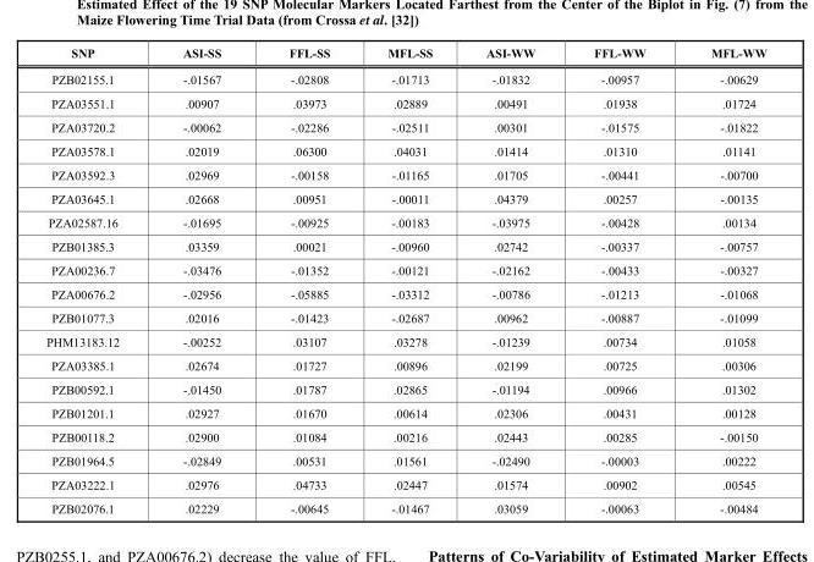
<table><thead><tr><td>SNP</td><td>ASI-SS</td><td>FFL-SS</td><td>MFL-SS</td><td>ASI-WW</td><td>FFL-WW</td><td>MFL-WW</td></tr></thead><tbody><tr><td>PZB02155.1</td><td>-.01567</td><td>-.02808</td><td>-.01713</td><td>-.01832</td><td>-.00957</td><td>-.00629</td></tr><tr><td>PZA03551.1</td><td>.00907</td><td>.03973</td><td>.02889</td><td>.00491</td><td>.01938</td><td>.01724</td></tr><tr><td>PZA03720.2</td><td>-.00062</td><td>-.02286</td><td>-.02511</td><td>.00301</td><td>-.01575</td><td>-.01822</td></tr><tr><td>PZA03578.1</td><td>.02019</td><td>.06300</td><td>.04031</td><td>.01414</td><td>.01310</td><td>.01141</td></tr><tr><td>PZA03592.3</td><td>.02969</td><td>-.00158</td><td>-.01165</td><td>.01705</td><td>-.00441</td><td>-.00700</td></tr><tr><td>PZA03645.1</td><td>.02668</td><td>.00951</td><td>-.00011</td><td>.04379</td><td>.00257</td><td>-.00135</td></tr><tr><td>PZA02587.16</td><td>-.01695</td><td>-.00925</td><td>-.00183</td><td>-.03975</td><td>-.00428</td><td>.00134</td></tr><tr><td>PZB01385.3</td><td>.03359</td><td>.00021</td><td>-.00960</td><td>.02742</td><td>-.00337</td><td>-.00757</td></tr><tr><td>PZA00236.7</td><td>-.03476</td><td>-.01352</td><td>-.00121</td><td>-.02162</td><td>-.00433</td><td>-.00327</td></tr><tr><td>PZA00676.2</td><td>-.02956</td><td>-.05885</td><td>-.03312</td><td>-.00786</td><td>-.01213</td><td>-.01068</td></tr><tr><td>PZB01077.3</td><td>.02016</td><td>-.01423</td><td>-.02687</td><td>.00962</td><td>-.00887</td><td>-.01099</td></tr><tr><td>PHM13183.12</td><td>-.00252</td><td>.03107</td><td>.03278</td><td>-.01239</td><td>.00734</td><td>.01058</td></tr><tr><td>PZA03385.1</td><td>.02674</td><td>.01727</td><td>.00896</td><td>.02199</td><td>.00725</td><td>.00306</td></tr><tr><td>PZB00592.1</td><td>-.01450</td><td>.01787</td><td>.02865</td><td>-.01194</td><td>.00966</td><td>.01302</td></tr><tr><td>PZB01201.1</td><td>.02927</td><td>.01670</td><td>.00614</td><td>.02306</td><td>.00431</td><td>.00128</td></tr><tr><td>PZB00118.2</td><td>.02900</td><td>.01084</td><td>.00216</td><td>.02443</td><td>.00285</td><td>-.00150</td></tr><tr><td>PZB01964.5</td><td>-.02849</td><td>.00531</td><td>.01561</td><td>-.02490</td><td>-.00003</td><td>.00222</td></tr><tr><td>PZA03222.1</td><td>.02976</td><td>.04733</td><td>.02447</td><td>.01574</td><td>.00902</td><td>.00545</td></tr><tr><td>PZB02076.1</td><td>.02229</td><td>-.00645</td><td>-.01467</td><td>.03059</td><td>-.00063</td><td>-.00484</td></tr></tbody></table>